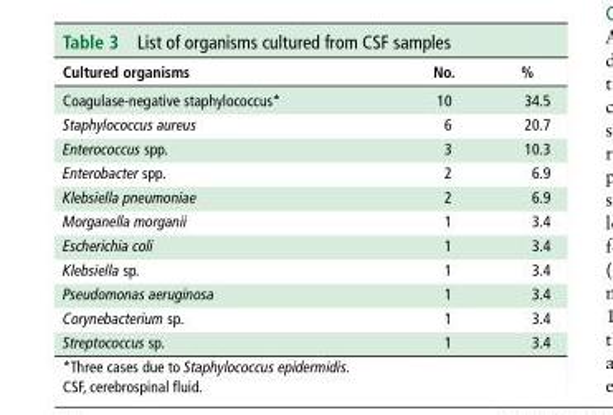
<table><thead><tr><td>Cultured organisms</td><td>No.</td><td>%</td></tr></thead><tbody><tr><td>Coagulase-negative staphylococcus*</td><td>10</td><td>34.5</td></tr><tr><td>Staphylococcus aureus</td><td>6</td><td>20.7</td></tr><tr><td>Enterococcus spp.</td><td>3</td><td>10.3</td></tr><tr><td>Enterobacter spp.</td><td>2</td><td>6.9</td></tr><tr><td>Klebsiella pneumoniae</td><td>2</td><td>6.9</td></tr><tr><td>Morganella morganii</td><td>1</td><td>3.4</td></tr><tr><td>Escherichia coli</td><td>1</td><td>3.4</td></tr><tr><td>Klebsiella sp.</td><td>1</td><td>3.4</td></tr><tr><td>Pseudomonas aeruginosa</td><td>1</td><td>3.4</td></tr><tr><td>Corynebacterium sp.</td><td>1</td><td>3.4</td></tr><tr><td>Streptococcus sp.</td><td>1</td><td>3.4</td></tr></tbody></table>